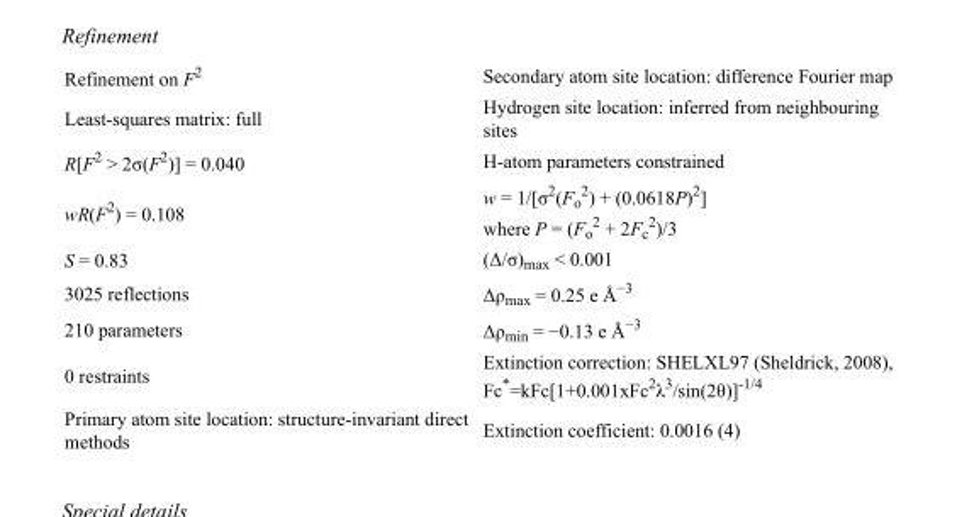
<table><tbody><tr><td>Refinement on F<sup>2</sup></td><td>Secondary atom site location: difference Fourier map</td></tr><tr><td>Least-squares matrix: full</td><td>Hydrogen site location: inferred from neighbouring sites</td></tr><tr><td>R[F<sup>2</sup> &gt; 2σ(F<sup>2</sup>)] = 0.040</td><td>H-atom parameters constrained</td></tr><tr><td>wR(F<sup>2</sup>) = 0.108</td><td>w = 1/[σ<sup>2</sup>(F<sub>o</sub> <sup>2</sup>) + (0.0618P)<sup>2</sup>] where P = (F<sub>o</sub> <sup>2</sup> + 2F<sub>c</sub> <sup>2</sup>)/3</td></tr><tr><td>S = 0.83</td><td>(Δ/σ)<sub>max</sub> &lt; 0.001</td></tr><tr><td>3025 reflections</td><td>Δρ<sub>max</sub> = 0.25 e Å<sup>−3</sup></td></tr><tr><td>210 parameters</td><td>Δρ<sub>min</sub> = −0.13 e Å<sup>−3</sup></td></tr><tr><td>0 restraints</td><td>Extinction correction: SHELXL97 (Sheldrick, 2008), Fc*=kFc[1+0.001xFc<sup>2</sup>λ<sup>3</sup>/sin(2θ)]<sup>-1/4</sup></td></tr><tr><td>Primary atom site location: structure-invariant direct methods</td><td>Extinction coefficient: 0.0016 (4)</td></tr></tbody></table>